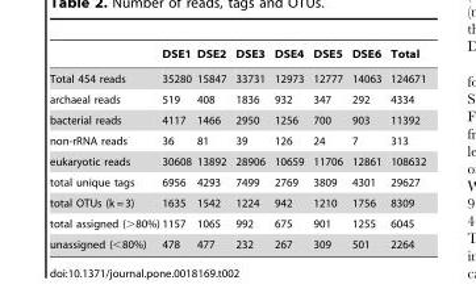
<table><thead><tr><td></td><td>DSE1</td><td>DSE2</td><td>DSE3</td><td>DSE4</td><td>DSE5</td><td>DSE6</td><td>Total</td></tr></thead><tbody><tr><td>Total 454 reads</td><td>35280</td><td>15847</td><td>33731</td><td>12973</td><td>12777</td><td>14063</td><td>124671</td></tr><tr><td>archaeal reads</td><td>519</td><td>408</td><td>1836</td><td>932</td><td>347</td><td>292</td><td>4334</td></tr><tr><td>bacterial reads</td><td>4117</td><td>1466</td><td>2950</td><td>1256</td><td>700</td><td>903</td><td>11392</td></tr><tr><td>non-rRNA reads</td><td>36</td><td>81</td><td>39</td><td>126</td><td>24</td><td>7</td><td>313</td></tr><tr><td>eukaryotic reads</td><td>30608</td><td>13892</td><td>28906</td><td>10659</td><td>11706</td><td>12861</td><td>108632</td></tr><tr><td>total unique tags</td><td>6956</td><td>4293</td><td>7499</td><td>2769</td><td>3809</td><td>4301</td><td>29627</td></tr><tr><td>total OTUs (k = 3)</td><td>1635</td><td>1542</td><td>1224</td><td>942</td><td>1210</td><td>1756</td><td>8309</td></tr><tr><td>total assigned (&gt;80%)</td><td>1157</td><td>1065</td><td>992</td><td>675</td><td>901</td><td>1255</td><td>6045</td></tr><tr><td>unassigned (&lt;80%)</td><td>478</td><td>477</td><td>232</td><td>267</td><td>309</td><td>501</td><td>2264</td></tr></tbody></table>